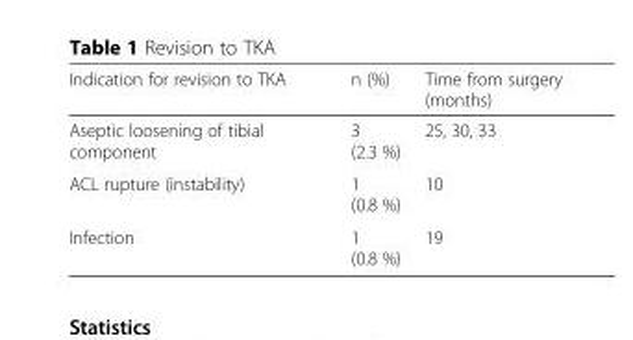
<table><thead><tr><td>Indication for revision to TKA</td><td>n (%)</td><td>Time from surgery (months)</td></tr></thead><tbody><tr><td>Aseptic loosening of tibial component</td><td>3 (2.3 %)</td><td>25, 30, 33</td></tr><tr><td>ACL rupture (instability)</td><td>1 (0.8 %)</td><td>10</td></tr><tr><td>Infection</td><td>1 (0.8 %)</td><td>19</td></tr></tbody></table>